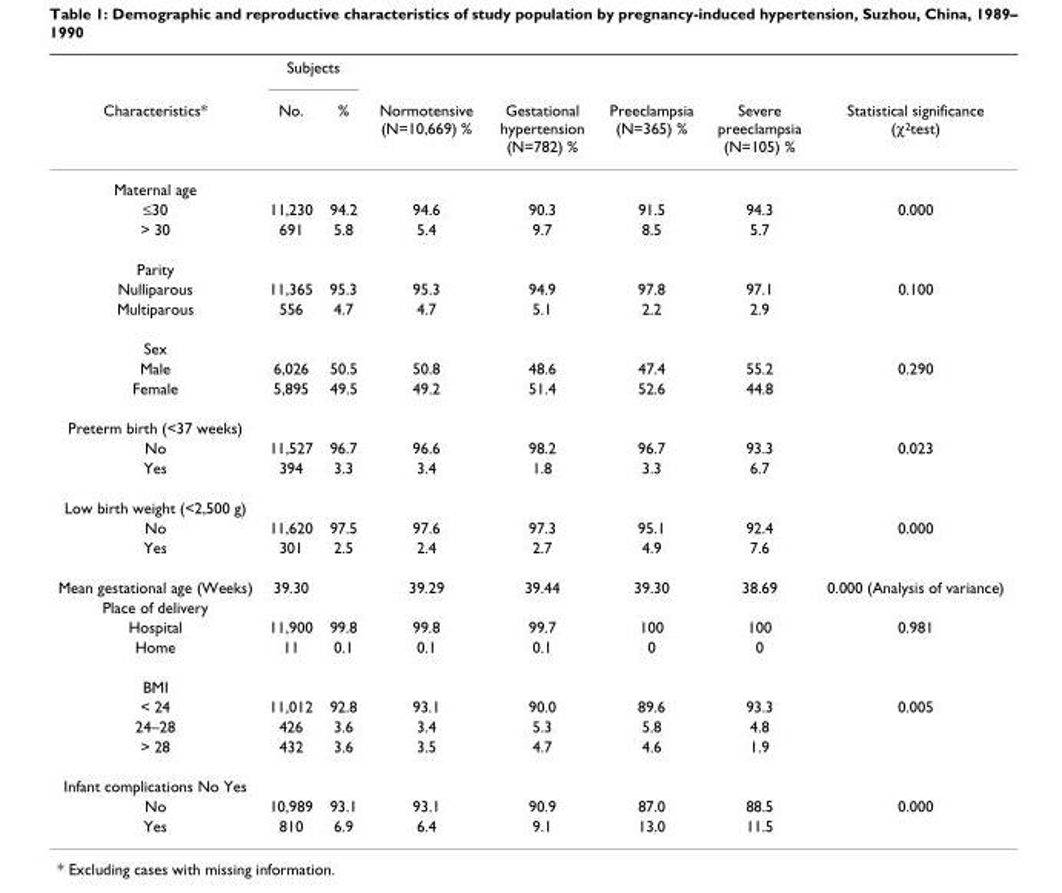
<table><thead><tr><td rowspan="2">Characteristics*</td><td colspan="2">Subjects</td><td rowspan="2">Normotensive (N=10,669) %</td><td rowspan="2">Gestational hypertension (N=782) %</td><td rowspan="2">Preeclampsia (N=365) %</td><td rowspan="2">Severe preeclampsia (N=105) %</td><td rowspan="2">Statistical significance (χ<sup>2</sup>test)</td></tr><tr><td>No.</td><td>%</td></tr></thead><tbody><tr><td colspan="8">Maternal age</td></tr><tr><td>≤30</td><td>11,230</td><td>94.2</td><td>94.6</td><td>90.3</td><td>91.5</td><td>94.3</td><td>0.000</td></tr><tr><td>&gt; 30</td><td>691</td><td>5.8</td><td>5.4</td><td>9.7</td><td>8.5</td><td>5.7</td><td></td></tr><tr><td colspan="8">Parity</td></tr><tr><td>Nulliparous</td><td>11,365</td><td>95.3</td><td>95.3</td><td>94.9</td><td>97.8</td><td>97.1</td><td>0.100</td></tr><tr><td>Multiparous</td><td>556</td><td>4.7</td><td>4.7</td><td>5.1</td><td>2.2</td><td>2.9</td><td></td></tr><tr><td colspan="8">Sex</td></tr><tr><td>Male</td><td>6,026</td><td>50.5</td><td>50.8</td><td>48.6</td><td>47.4</td><td>55.2</td><td>0.290</td></tr><tr><td>Female</td><td>5,895</td><td>49.5</td><td>49.2</td><td>51.4</td><td>52.6</td><td>44.8</td><td></td></tr><tr><td colspan="8">Preterm birth (&lt;37 weeks)</td></tr><tr><td>No</td><td>11,527</td><td>96.7</td><td>96.6</td><td>98.2</td><td>96.7</td><td>93.3</td><td>0.023</td></tr><tr><td>Yes</td><td>394</td><td>3.3</td><td>3.4</td><td>1.8</td><td>3.3</td><td>6.7</td><td></td></tr><tr><td colspan="8">Low birth weight (&lt;2,500 g)</td></tr><tr><td>No</td><td>11,620</td><td>97.5</td><td>97.6</td><td>97.3</td><td>95.1</td><td>92.4</td><td>0.000</td></tr><tr><td>Yes</td><td>301</td><td>2.5</td><td>2.4</td><td>2.7</td><td>4.9</td><td>7.6</td><td></td></tr><tr><td>Mean gestational age (Weeks)</td><td>39.30</td><td></td><td>39.29</td><td>39.44</td><td>39.30</td><td>38.69</td><td>0.000 (Analysis of variance)</td></tr><tr><td colspan="8">Place of delivery</td></tr><tr><td>Hospital</td><td>11,900</td><td>99.8</td><td>99.8</td><td>99.7</td><td>100</td><td>100</td><td>0.981</td></tr><tr><td>Home</td><td>11</td><td>0.1</td><td>0.1</td><td>0.1</td><td>0</td><td>0</td><td></td></tr><tr><td colspan="8">BMI</td></tr><tr><td>&lt; 24</td><td>11,012</td><td>92.8</td><td>93.1</td><td>90.0</td><td>89.6</td><td>93.3</td><td>0.005</td></tr><tr><td>24–28</td><td>426</td><td>3.6</td><td>3.4</td><td>5.3</td><td>5.8</td><td>4.8</td><td></td></tr><tr><td>&gt; 28</td><td>432</td><td>3.6</td><td>3.5</td><td>4.7</td><td>4.6</td><td>1.9</td><td></td></tr><tr><td colspan="8">Infant complications No Yes</td></tr><tr><td>No</td><td>10,989</td><td>93.1</td><td>93.1</td><td>90.9</td><td>87.0</td><td>88.5</td><td>0.000</td></tr><tr><td>Yes</td><td>810</td><td>6.9</td><td>6.4</td><td>9.1</td><td>13.0</td><td>11.5</td><td></td></tr></tbody></table>